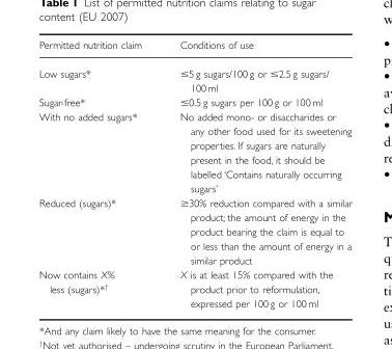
<table><thead><tr><td>Permitted nutrition claim</td><td>Conditions of use</td></tr></thead><tbody><tr><td>Low sugars*</td><td>≤5 g sugars/100 g or ≤2.5 g sugars/ 100 ml</td></tr><tr><td>Sugar-free*</td><td>≤0.5 g sugars per 100 g or 100 ml</td></tr><tr><td>With no added sugars*</td><td>No added mono- or disaccharides or any other food used for its sweetening properties. If sugars are naturally present in the food, it should be labelled ‘Contains naturally occurring sugars’</td></tr><tr><td>Reduced (sugars)*</td><td>≥30% reduction compared with a similar product; the amount of energy in the product bearing the claim is equal to or less than the amount of energy in a similar product</td></tr><tr><td>Now contains X% less (sugars)*†</td><td>X is at least 15% compared with the product prior to reformulation, expressed per 100 g or 100 ml</td></tr></tbody></table>